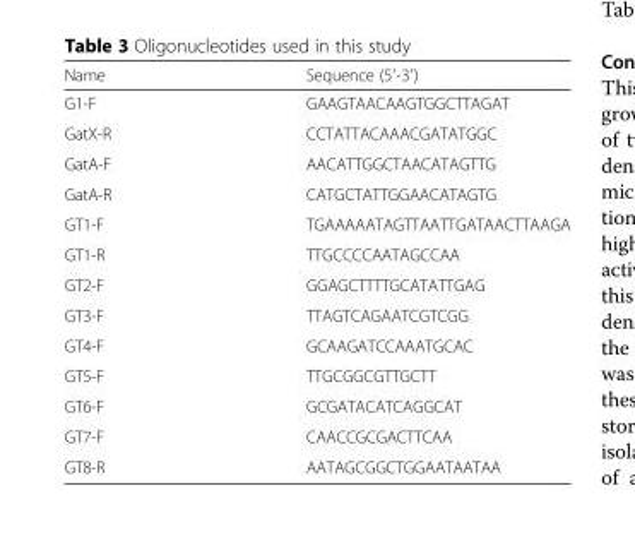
<table><thead><tr><td>Name</td><td>Sequence (5′-3′)</td></tr></thead><tbody><tr><td>G1-F</td><td>GAAGTAACAAGTGGCTTAGAT</td></tr><tr><td>GatX-R</td><td>CCTATTACAAACGATATGGC</td></tr><tr><td>GatA-F</td><td>AACATTGGCTAACATAGTTG</td></tr><tr><td>GatA-R</td><td>CATGCTATTGGAACATAGTG</td></tr><tr><td>GT1-F</td><td>TGAAAAATAGTTAATTGATAACTTAAGA</td></tr><tr><td>GT1-R</td><td>TTGCCCCAATAGCCAA</td></tr><tr><td>GT2-F</td><td>GGAGCTTTTGCATATTGAG</td></tr><tr><td>GT3-F</td><td>TTAGTCAGAATCGTCGG</td></tr><tr><td>GT4-F</td><td>GCAAGATCCAAATGCAC</td></tr><tr><td>GT5-F</td><td>TTGCGGCGTTGCTT</td></tr><tr><td>GT6-F</td><td>GCGATACATCAGGCAT</td></tr><tr><td>GT7-F</td><td>CAACCGCGACTTCAA</td></tr><tr><td>GT8-R</td><td>AATAGCGGCTGGAATAATAA</td></tr></tbody></table>